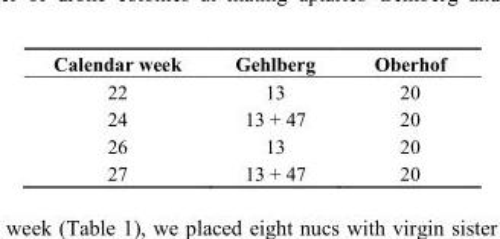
<table><thead><tr><td>Calendar week</td><td>Gehlberg</td><td>Oberhof</td></tr></thead><tbody><tr><td>22</td><td>13</td><td>20</td></tr><tr><td>24</td><td>13 + 47</td><td>20</td></tr><tr><td>26</td><td>13</td><td>20</td></tr><tr><td>27</td><td>13 + 47</td><td>20</td></tr></tbody></table>